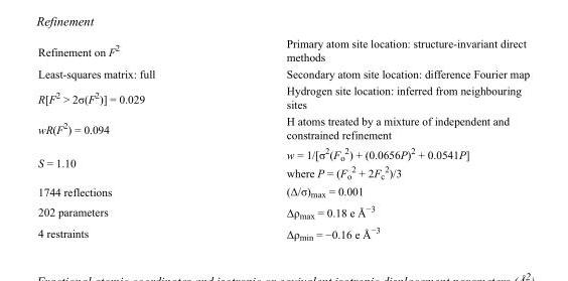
<table><tbody><tr><td>Refinement on F<sup>2</sup></td><td>Primary atom site location: structure-invariant direct methods</td></tr><tr><td>Least-squares matrix: full</td><td>Secondary atom site location: difference Fourier map</td></tr><tr><td>R[F<sup>2</sup> &gt; 2σ(F<sup>2</sup>)] = 0.029</td><td>Hydrogen site location: inferred from neighbouring sites</td></tr><tr><td>wR(F<sup>2</sup>) = 0.094</td><td>H atoms treated by a mixture of independent and constrained refinement</td></tr><tr><td>S = 1.10</td><td>w = 1/[σ<sup>2</sup>(F<sub>o</sub> <sup>2</sup>) + (0.0656P)<sup>2</sup> + 0.0541P] where P = (F<sub>o</sub> <sup>2</sup> + 2F<sub>c</sub> <sup>2</sup>)/3</td></tr><tr><td>1744 reflections</td><td>(Δ/σ)<sub>max</sub> = 0.001</td></tr><tr><td>202 parameters</td><td>Δρ<sub>max</sub> = 0.18 e Å<sup>−3</sup></td></tr><tr><td>4 restraints</td><td>Δρ<sub>min</sub> = −0.16 e Å<sup>−3</sup></td></tr></tbody></table>